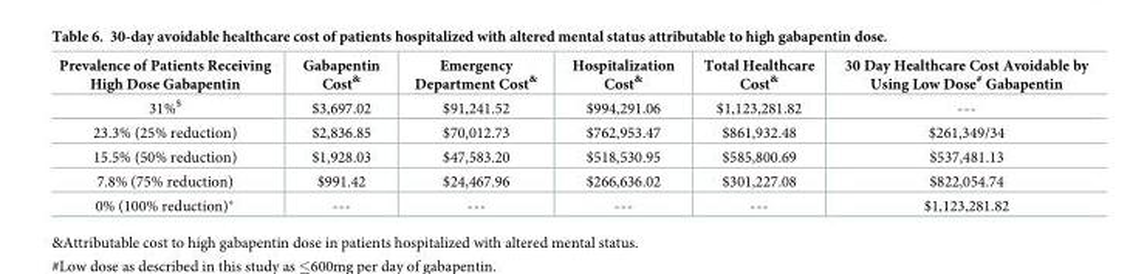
<table><thead><tr><td>Prevalence of Patients Receiving High Dose Gabapentin</td><td>Gabapentin Cost<sup>&amp;</sup></td><td>Emergency Department Cost<sup>&amp;</sup></td><td>Hospitalization Cost<sup>&amp;</sup></td><td>Total Healthcare Cost<sup>&amp;</sup></td><td>30 Day Healthcare Cost Avoidable by Using Low Dose<sup>#</sup> Gabapentin</td></tr></thead><tbody><tr><td>31%<sup>$</sup></td><td>$3,697.02</td><td>$91,241.52</td><td>$994,291.06</td><td>$1,123,281.82</td><td>---</td></tr><tr><td>23.3% (25% reduction)</td><td>$2,836.85</td><td>$70,012.73</td><td>$762,953.47</td><td>$861,932.48</td><td>$261,349/34</td></tr><tr><td>15.5% (50% reduction)</td><td>$1,928.03</td><td>$47,583.20</td><td>$518,530.95</td><td>$585,800.69</td><td>$537,481.13</td></tr><tr><td>7.8% (75% reduction)</td><td>$991.42</td><td>$24,467.96</td><td>$266,636.02</td><td>$301,227.08</td><td>$822,054.74</td></tr><tr><td>0% (100% reduction)*</td><td>---</td><td>---</td><td>---</td><td>---</td><td>$1,123,281.82</td></tr></tbody></table>